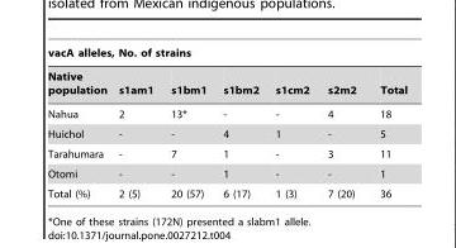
<table><thead><tr><td colspan="7">vacA alleles, No. of strains</td></tr><tr><td>Native population</td><td>s1am1</td><td>s1bm1</td><td>s1bm2</td><td>s1cm2</td><td>s2m2</td><td>Total</td></tr></thead><tbody><tr><td>Nahua</td><td>2</td><td>13*</td><td>-</td><td>-</td><td>4</td><td>18</td></tr><tr><td>Huichol</td><td>-</td><td>-</td><td>4</td><td>1</td><td>-</td><td>5</td></tr><tr><td>Tarahumara</td><td>-</td><td>7</td><td>1</td><td>-</td><td>3</td><td>11</td></tr><tr><td>Otomi</td><td>-</td><td>-</td><td>1</td><td>-</td><td>-</td><td>1</td></tr><tr><td>Total (%)</td><td>2 (5)</td><td>20 (57)</td><td>6 (17)</td><td>1 (3)</td><td>7 (20)</td><td>36</td></tr></tbody></table>